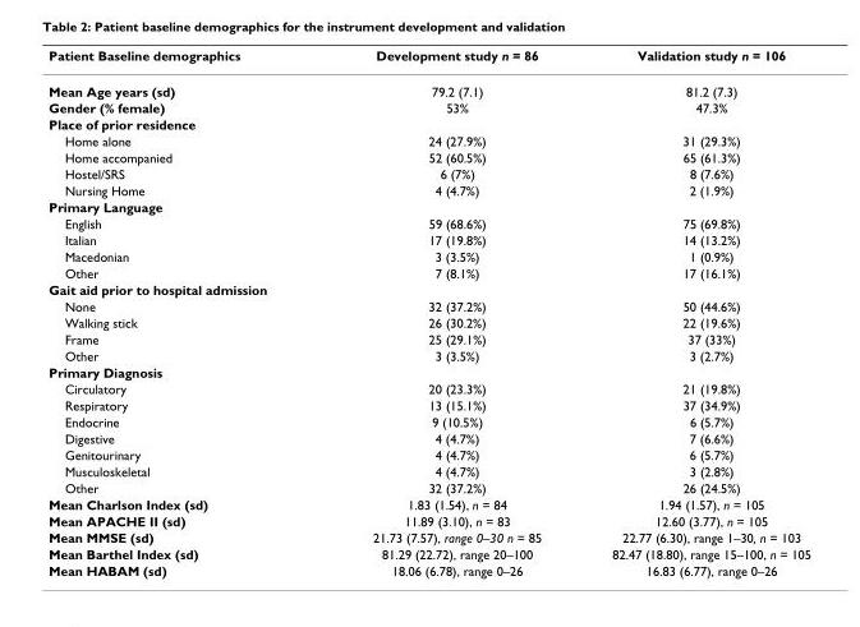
<table><thead><tr><td>Patient Baseline demographics</td><td>Development study n = 86</td><td>Validation study n = 106</td></tr></thead><tbody><tr><td>Mean Age years (sd)</td><td>79.2 (7.1)</td><td>81.2 (7.3)</td></tr><tr><td>Gender (% female)</td><td>53%</td><td>47.3%</td></tr><tr><td colspan="3">Place of prior residence</td></tr><tr><td>Home alone</td><td>24 (27.9%)</td><td>31 (29.3%)</td></tr><tr><td>Home accompanied</td><td>52 (60.5%)</td><td>65 (61.3%)</td></tr><tr><td>Hostel/SRS</td><td>6 (7%)</td><td>8 (7.6%)</td></tr><tr><td>Nursing Home</td><td>4 (4.7%)</td><td>2 (1.9%)</td></tr><tr><td colspan="3">Primary Language</td></tr><tr><td>English</td><td>59 (68.6%)</td><td>75 (69.8%)</td></tr><tr><td>Italian</td><td>17 (19.8%)</td><td>14 (13.2%)</td></tr><tr><td>Macedonian</td><td>3 (3.5%)</td><td>1 (0.9%)</td></tr><tr><td>Other</td><td>7 (8.1%)</td><td>17 (16.1%)</td></tr><tr><td colspan="3">Gait aid prior to hospital admission</td></tr><tr><td>None</td><td>32 (37.2%)</td><td>50 (44.6%)</td></tr><tr><td>Walking stick</td><td>26 (30.2%)</td><td>22 (19.6%)</td></tr><tr><td>Frame</td><td>25 (29.1%)</td><td>37 (33%)</td></tr><tr><td>Other</td><td>3 (3.5%)</td><td>3 (2.7%)</td></tr><tr><td colspan="3">Primary Diagnosis</td></tr><tr><td>Circulatory</td><td>20 (23.3%)</td><td>21 (19.8%)</td></tr><tr><td>Respiratory</td><td>13 (15.1%)</td><td>37 (34.9%)</td></tr><tr><td>Endocrine</td><td>9 (10.5%)</td><td>6 (5.7%)</td></tr><tr><td>Digestive</td><td>4 (4.7%)</td><td>7 (6.6%)</td></tr><tr><td>Genitourinary</td><td>4 (4.7%)</td><td>6 (5.7%)</td></tr><tr><td>Musculoskeletal</td><td>4 (4.7%)</td><td>3 (2.8%)</td></tr><tr><td>Other</td><td>32 (37.2%)</td><td>26 (24.5%)</td></tr><tr><td>Mean Charlson Index (sd)</td><td>1.83 (1.54), n = 84</td><td>1.94 (1.57), n = 105</td></tr><tr><td>Mean APACHE II (sd)</td><td>11.89 (3.10), n = 83</td><td>12.60 (3.77), n = 105</td></tr><tr><td>Mean MMSE (sd)</td><td>21.73 (7.57), range 0–30 n = 85</td><td>22.77 (6.30), range 1–30, n = 103</td></tr><tr><td>Mean Barthel Index (sd)</td><td>81.29 (22.72), range 20–100</td><td>82.47 (18.80), range 15–100, n = 105</td></tr><tr><td>Mean HABAM (sd)</td><td>18.06 (6.78), range 0–26</td><td>16.83 (6.77), range 0–26</td></tr></tbody></table>